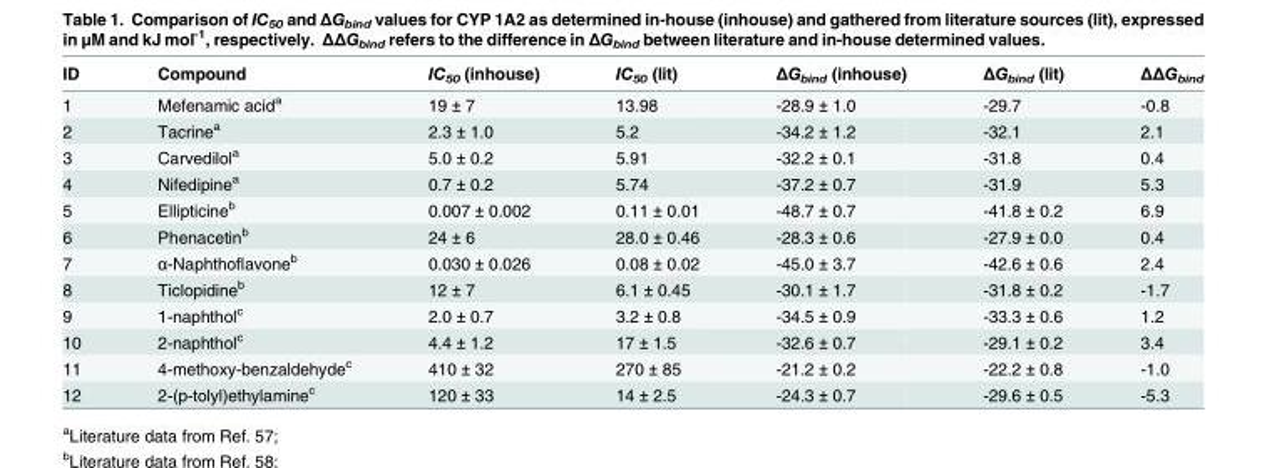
<table><thead><tr><td>ID</td><td>Compound</td><td>IC<sub>50</sub> (inhouse)</td><td>IC<sub>50</sub> (lit)</td><td>ΔG<sub>bind</sub> (inhouse)</td><td>ΔG<sub>bind</sub> (lit)</td><td>ΔΔG<sub>bind</sub></td></tr></thead><tbody><tr><td>1</td><td>Mefenamic acid<sup>a</sup></td><td>19 ± 7</td><td>13.98</td><td>-28.9 ± 1.0</td><td>-29.7</td><td>-0.8</td></tr><tr><td>2</td><td>Tacrine<sup>a</sup></td><td>2.3 ± 1.0</td><td>5.2</td><td>-34.2 ± 1.2</td><td>-32.1</td><td>2.1</td></tr><tr><td>3</td><td>Carvedilol<sup>a</sup></td><td>5.0 ± 0.2</td><td>5.91</td><td>-32.2 ± 0.1</td><td>-31.8</td><td>0.4</td></tr><tr><td>4</td><td>Nifedipine<sup>a</sup></td><td>0.7 ± 0.2</td><td>5.74</td><td>-37.2 ± 0.7</td><td>-31.9</td><td>5.3</td></tr><tr><td>5</td><td>Ellipticine<sup>b</sup></td><td>0.007 ± 0.002</td><td>0.11 ± 0.01</td><td>-48.7 ± 0.7</td><td>-41.8 ± 0.2</td><td>6.9</td></tr><tr><td>6</td><td>Phenacetin<sup>b</sup></td><td>24 ± 6</td><td>28.0 ± 0.46</td><td>-28.3 ± 0.6</td><td>-27.9 ± 0.0</td><td>0.4</td></tr><tr><td>7</td><td>α-Naphthoflavone<sup>b</sup></td><td>0.030 ± 0.026</td><td>0.08 ± 0.02</td><td>-45.0 ± 3.7</td><td>-42.6 ± 0.6</td><td>2.4</td></tr><tr><td>8</td><td>Ticlopidine<sup>b</sup></td><td>12 ± 7</td><td>6.1 ± 0.45</td><td>-30.1 ± 1.7</td><td>-31.8 ± 0.2</td><td>-1.7</td></tr><tr><td>9</td><td>1-naphthol<sup>c</sup></td><td>2.0 ± 0.7</td><td>3.2 ± 0.8</td><td>-34.5 ± 0.9</td><td>-33.3 ± 0.6</td><td>1.2</td></tr><tr><td>10</td><td>2-naphthol<sup>c</sup></td><td>4.4 ± 1.2</td><td>17 ± 1.5</td><td>-32.6 ± 0.7</td><td>-29.1 ± 0.2</td><td>3.4</td></tr><tr><td>11</td><td>4-methoxy-benzaldehyde<sup>c</sup></td><td>410 ± 32</td><td>270 ± 85</td><td>-21.2 ± 0.2</td><td>-22.2 ± 0.8</td><td>-1.0</td></tr><tr><td>12</td><td>2-(p-tolyl)ethylamine<sup>c</sup></td><td>120 ± 33</td><td>14 ± 2.5</td><td>-24.3 ± 0.7</td><td>-29.6 ± 0.5</td><td>-5.3</td></tr></tbody></table>